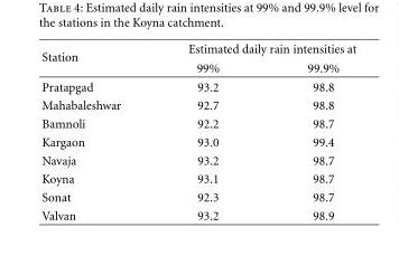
<table><thead><tr><td rowspan="2">Station</td><td colspan="2">Estimated daily rain intensities at</td></tr><tr><td>99%</td><td>99.9%</td></tr></thead><tbody><tr><td>Pratapgad</td><td>93.2</td><td>98.8</td></tr><tr><td>Mahabaleshwar</td><td>92.7</td><td>98.8</td></tr><tr><td>Bamnoli</td><td>92.2</td><td>98.7</td></tr><tr><td>Kargaon</td><td>93.0</td><td>99.4</td></tr><tr><td>Navaja</td><td>93.2</td><td>98.7</td></tr><tr><td>Koyna</td><td>93.1</td><td>98.7</td></tr><tr><td>Sonat</td><td>92.3</td><td>98.7</td></tr><tr><td>Valvan</td><td>93.2</td><td>98.9</td></tr></tbody></table>